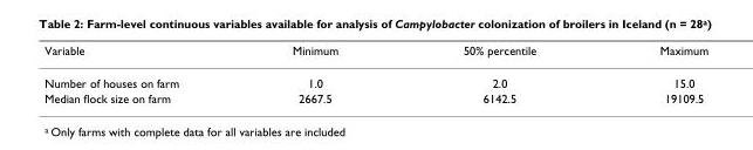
<table><thead><tr><td>Variable</td><td>Minimum</td><td>50% percentile</td><td>Maximum</td></tr></thead><tbody><tr><td>Number of houses on farm</td><td>1.0</td><td>2.0</td><td>15.0</td></tr><tr><td>Median flock size on farm</td><td>2667.5</td><td>6142.5</td><td>19109.5</td></tr></tbody></table>